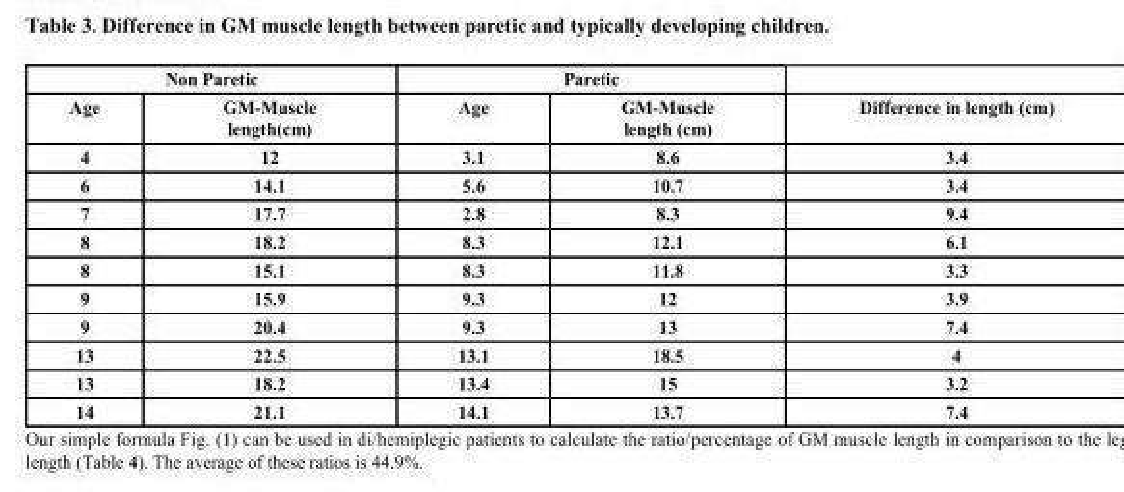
<table><thead><tr><td colspan="2">Non Paretic</td><td colspan="2">Paretic</td><td rowspan="2">Difference in length (cm)</td></tr><tr><td>Age</td><td>GM-Muscle length(cm)</td><td>Age</td><td>GM-Muscle length (cm)</td></tr></thead><tbody><tr><td>4</td><td>12</td><td>3.1</td><td>8.6</td><td>3.4</td></tr><tr><td>6</td><td>14.1</td><td>5.6</td><td>10.7</td><td>3.4</td></tr><tr><td>7</td><td>17.7</td><td>2.8</td><td>8.3</td><td>9.4</td></tr><tr><td>8</td><td>18.2</td><td>8.3</td><td>12.1</td><td>6.1</td></tr><tr><td>8</td><td>15.1</td><td>8.3</td><td>11.8</td><td>3.3</td></tr><tr><td>9</td><td>15.9</td><td>9.3</td><td>12</td><td>3.9</td></tr><tr><td>9</td><td>20.4</td><td>9.3</td><td>13</td><td>7.4</td></tr><tr><td>13</td><td>22.5</td><td>13.1</td><td>18.5</td><td>4</td></tr><tr><td>13</td><td>18.2</td><td>13.4</td><td>15</td><td>3.2</td></tr><tr><td>14</td><td>21.1</td><td>14.1</td><td>13.7</td><td>7.4</td></tr></tbody></table>